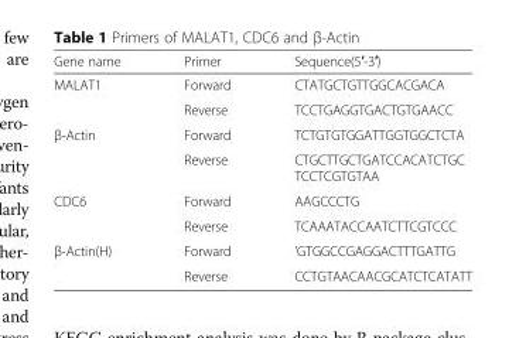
<table><thead><tr><td>Gene name</td><td>Primer</td><td>Sequence(5′-3′)</td></tr></thead><tbody><tr><td rowspan="2">MALAT1</td><td>Forward</td><td>CTATGCTGTTGGCACGACA</td></tr><tr><td>Reverse</td><td>TCCTGAGGTGACTGTGAACC</td></tr><tr><td rowspan="2">β-Actin</td><td>Forward</td><td>TCTGTGTGGATTGGTGGCTCTA</td></tr><tr><td>Reverse</td><td>CTGCTTGCTGATCCACATCTGC TCCTCGTGTAA</td></tr><tr><td rowspan="2">CDC6</td><td>Forward</td><td>AAGCCCTG</td></tr><tr><td>Reverse</td><td>TCAAATACCAATCTTCGTCCC</td></tr><tr><td rowspan="2">β-Actin(H)</td><td>Forward</td><td>’GTGGCCGAGGACTTTGATTG</td></tr><tr><td>Reverse</td><td>CCTGTAACAACGCATCTCATATT</td></tr></tbody></table>